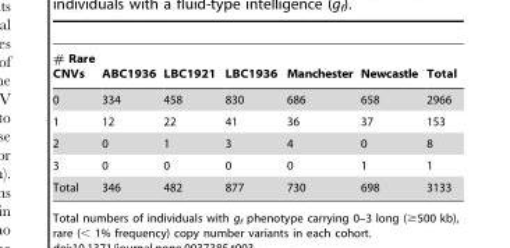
<table><thead><tr><td># Rare CNVs</td><td>ABC1936</td><td>LBC1921</td><td>LBC1936</td><td>Manchester</td><td>Newcastle</td><td>Total</td></tr></thead><tbody><tr><td>0</td><td>334</td><td>458</td><td>830</td><td>686</td><td>658</td><td>2966</td></tr><tr><td>1</td><td>12</td><td>22</td><td>41</td><td>36</td><td>37</td><td>153</td></tr><tr><td>2</td><td>0</td><td>1</td><td>3</td><td>4</td><td>0</td><td>8</td></tr><tr><td>3</td><td>0</td><td>0</td><td>0</td><td>0</td><td>1</td><td>1</td></tr><tr><td>Total</td><td>346</td><td>482</td><td>877</td><td>730</td><td>698</td><td>3133</td></tr></tbody></table>